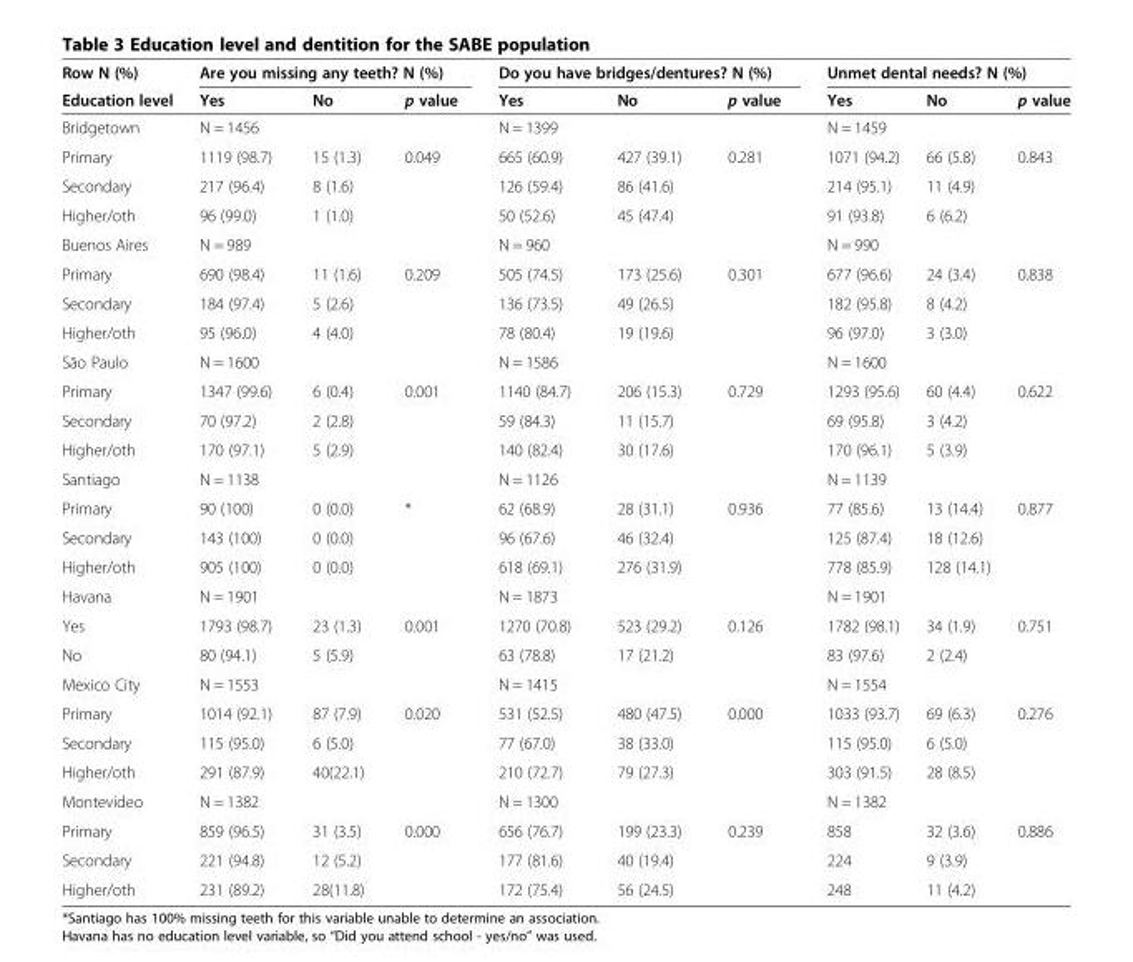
<table><thead><tr><td rowspan="2">Row N (%) Education level</td><td colspan="3">Are you missing any teeth? N (%)</td><td colspan="3">Do you have bridges/dentures? N (%)</td><td colspan="3">Unmet dental needs? N (%)</td></tr><tr><td>Yes</td><td>No</td><td>p value</td><td>Yes</td><td>No</td><td>p value</td><td>Yes</td><td>No</td><td>p value</td></tr></thead><tbody><tr><td>Bridgetown</td><td colspan="2">N = 1456</td><td></td><td colspan="2">N = 1399</td><td></td><td colspan="3">N = 1459</td></tr><tr><td>Primary</td><td>1119 (98.7)</td><td>15 (1.3)</td><td>0.049</td><td>665 (60.9)</td><td>427 (39.1)</td><td>0.281</td><td>1071 (94.2)</td><td>66 (5.8)</td><td>0.843</td></tr><tr><td>Secondary</td><td>217 (96.4)</td><td>8 (1.6)</td><td></td><td>126 (59.4)</td><td>86 (41.6)</td><td></td><td>214 (95.1)</td><td>11 (4.9)</td><td></td></tr><tr><td>Higher/oth</td><td>96 (99.0)</td><td>1 (1.0)</td><td></td><td>50 (52.6)</td><td>45 (47.4)</td><td></td><td>91 (93.8)</td><td>6 (6.2)</td><td></td></tr><tr><td>Buenos Aires</td><td colspan="2">N = 989</td><td></td><td colspan="2">N = 960</td><td></td><td colspan="3">N = 990</td></tr><tr><td>Primary</td><td>690 (98.4)</td><td>11 (1.6)</td><td>0.209</td><td>505 (74.5)</td><td>173 (25.6)</td><td>0.301</td><td>677 (96.6)</td><td>24 (3.4)</td><td>0.838</td></tr><tr><td>Secondary</td><td>184 (97.4)</td><td>5 (2.6)</td><td></td><td>136 (73.5)</td><td>49 (26.5)</td><td></td><td>182 (95.8)</td><td>8 (4.2)</td><td></td></tr><tr><td>Higher/oth</td><td>95 (96.0)</td><td>4 (4.0)</td><td></td><td>78 (80.4)</td><td>19 (19.6)</td><td></td><td>96 (97.0)</td><td>3 (3.0)</td><td></td></tr><tr><td>São Paulo</td><td colspan="2">N = 1600</td><td></td><td colspan="2">N = 1586</td><td></td><td colspan="3">N = 1600</td></tr><tr><td>Primary</td><td>1347 (99.6)</td><td>6 (0.4)</td><td>0.001</td><td>1140 (84.7)</td><td>206 (15.3)</td><td>0.729</td><td>1293 (95.6)</td><td>60 (4.4)</td><td>0.622</td></tr><tr><td>Secondary</td><td>70 (97.2)</td><td>2 (2.8)</td><td></td><td>59 (84.3)</td><td>11 (15.7)</td><td></td><td>69 (95.8)</td><td>3 (4.2)</td><td></td></tr><tr><td>Higher/oth</td><td>170 (97.1)</td><td>5 (2.9)</td><td></td><td>140 (82.4)</td><td>30 (17.6)</td><td></td><td>170 (96.1)</td><td>5 (3.9)</td><td></td></tr><tr><td>Santiago</td><td colspan="2">N = 1138</td><td></td><td colspan="2">N = 1126</td><td></td><td colspan="3">N = 1139</td></tr><tr><td>Primary</td><td>90 (100)</td><td>0 (0.0)</td><td>*</td><td>62 (68.9)</td><td>28 (31.1)</td><td>0.936</td><td>77 (85.6)</td><td>13 (14.4)</td><td>0.877</td></tr><tr><td>Secondary</td><td>143 (100)</td><td>0 (0.0)</td><td></td><td>96 (67.6)</td><td>46 (32.4)</td><td></td><td>125 (87.4)</td><td>18 (12.6)</td><td></td></tr><tr><td>Higher/oth</td><td>905 (100)</td><td>0 (0.0)</td><td></td><td>618 (69.1)</td><td>276 (31.9)</td><td></td><td>778 (85.9)</td><td>128 (14.1)</td><td></td></tr><tr><td>Havana</td><td colspan="2">N = 1901</td><td></td><td colspan="2">N = 1873</td><td></td><td colspan="3">N = 1901</td></tr><tr><td>Yes</td><td>1793 (98.7)</td><td>23 (1.3)</td><td>0.001</td><td>1270 (70.8)</td><td>523 (29.2)</td><td>0.126</td><td>1782 (98.1)</td><td>34 (1.9)</td><td>0.751</td></tr><tr><td>No</td><td>80 (94.1)</td><td>5 (5.9)</td><td></td><td>63 (78.8)</td><td>17 (21.2)</td><td></td><td>83 (97.6)</td><td>2 (2.4)</td><td></td></tr><tr><td>Mexico City</td><td colspan="2">N = 1553</td><td></td><td colspan="2">N = 1415</td><td></td><td colspan="3">N = 1554</td></tr><tr><td>Primary</td><td>1014 (92.1)</td><td>87 (7.9)</td><td>0.020</td><td>531 (52.5)</td><td>480 (47.5)</td><td>0.000</td><td>1033 (93.7)</td><td>69 (6.3)</td><td>0.276</td></tr><tr><td>Secondary</td><td>115 (95.0)</td><td>6 (5.0)</td><td></td><td>77 (67.0)</td><td>38 (33.0)</td><td></td><td>115 (95.0)</td><td>6 (5.0)</td><td></td></tr><tr><td>Higher/oth</td><td>291 (87.9)</td><td>40(22.1)</td><td></td><td>210 (72.7)</td><td>79 (27.3)</td><td></td><td>303 (91.5)</td><td>28 (8.5)</td><td></td></tr><tr><td>Montevideo</td><td colspan="2">N = 1382</td><td></td><td colspan="2">N = 1300</td><td></td><td colspan="3">N = 1382</td></tr><tr><td>Primary</td><td>859 (96.5)</td><td>31 (3.5)</td><td>0.000</td><td>656 (76.7)</td><td>199 (23.3)</td><td>0.239</td><td>858</td><td>32 (3.6)</td><td>0.886</td></tr><tr><td>Secondary</td><td>221 (94.8)</td><td>12 (5.2)</td><td></td><td>177 (81.6)</td><td>40 (19.4)</td><td></td><td>224</td><td>9 (3.9)</td><td></td></tr><tr><td>Higher/oth</td><td>231 (89.2)</td><td>28(11.8)</td><td></td><td>172 (75.4)</td><td>56 (24.5)</td><td></td><td>248</td><td>11 (4.2)</td><td></td></tr></tbody></table>